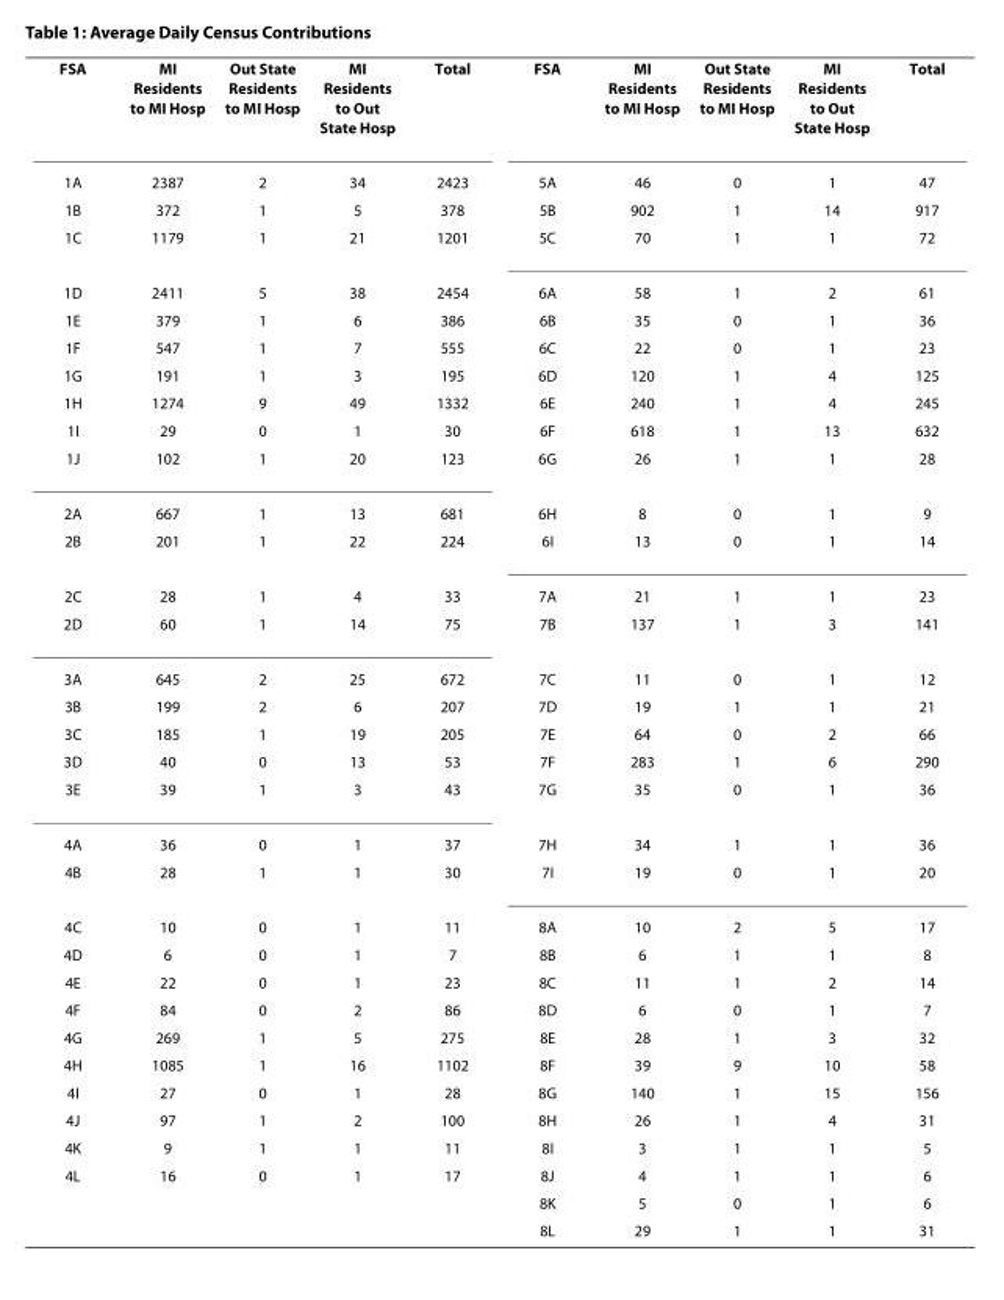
<table><tbody><tr><td>FSA</td><td>MI Residents to MI Hosp</td><td>Out State Residents to MI Hosp</td><td>MI Residents to Out State Hosp</td><td>Total</td><td>FSA</td><td>MI Residents to MI Hosp</td><td>Out State Residents to MI Hosp</td><td>MI Residents to Out State Hosp</td><td>Total</td></tr><tr><td>1A</td><td>2387</td><td>2</td><td>34</td><td>2423</td><td>5A</td><td>46</td><td>0</td><td>1</td><td>47</td></tr><tr><td>1B</td><td>372</td><td>1</td><td>5</td><td>378</td><td>5B</td><td>902</td><td>1</td><td>14</td><td>917</td></tr><tr><td>1C</td><td>1179</td><td>1</td><td>21</td><td>1201</td><td>5C</td><td>70</td><td>1</td><td>1</td><td>72</td></tr><tr><td>1D</td><td>2411</td><td>5</td><td>38</td><td>2454</td><td>6A</td><td>58</td><td>1</td><td>2</td><td>61</td></tr><tr><td>1E</td><td>379</td><td>1</td><td>6</td><td>386</td><td>6B</td><td>35</td><td>0</td><td>1</td><td>36</td></tr><tr><td>1F</td><td>547</td><td>1</td><td>7</td><td>555</td><td>6C</td><td>22</td><td>0</td><td>1</td><td>23</td></tr><tr><td>1G</td><td>191</td><td>1</td><td>3</td><td>195</td><td>6D</td><td>120</td><td>1</td><td>4</td><td>125</td></tr><tr><td>1H</td><td>1274</td><td>9</td><td>49</td><td>1332</td><td>6E</td><td>240</td><td>1</td><td>4</td><td>245</td></tr><tr><td>1I</td><td>29</td><td>0</td><td>1</td><td>30</td><td>6F</td><td>618</td><td>1</td><td>13</td><td>632</td></tr><tr><td>1J</td><td>102</td><td>1</td><td>20</td><td>123</td><td>6G</td><td>26</td><td>1</td><td>1</td><td>28</td></tr><tr><td>2A</td><td>667</td><td>1</td><td>13</td><td>681</td><td>6H</td><td>8</td><td>0</td><td>1</td><td>9</td></tr><tr><td>2B</td><td>201</td><td>1</td><td>22</td><td>224</td><td>6I</td><td>13</td><td>0</td><td>1</td><td>14</td></tr><tr><td>2C</td><td>28</td><td>1</td><td>4</td><td>33</td><td>7A</td><td>21</td><td>1</td><td>1</td><td>23</td></tr><tr><td>2D</td><td>60</td><td>1</td><td>14</td><td>75</td><td>7B</td><td>137</td><td>1</td><td>3</td><td>141</td></tr><tr><td>3A</td><td>645</td><td>2</td><td>25</td><td>672</td><td>7C</td><td>11</td><td>0</td><td>1</td><td>12</td></tr><tr><td>3B</td><td>199</td><td>2</td><td>6</td><td>207</td><td>7D</td><td>19</td><td>1</td><td>1</td><td>21</td></tr><tr><td>3C</td><td>185</td><td>1</td><td>19</td><td>205</td><td>7E</td><td>64</td><td>0</td><td>2</td><td>66</td></tr><tr><td>3D</td><td>40</td><td>0</td><td>13</td><td>53</td><td>7F</td><td>283</td><td>1</td><td>6</td><td>290</td></tr><tr><td>3E</td><td>39</td><td>1</td><td>3</td><td>43</td><td>7G</td><td>35</td><td>0</td><td>1</td><td>36</td></tr><tr><td>4A</td><td>36</td><td>0</td><td>1</td><td>37</td><td>7H</td><td>34</td><td>1</td><td>1</td><td>36</td></tr><tr><td>4B</td><td>28</td><td>1</td><td>1</td><td>30</td><td>7I</td><td>19</td><td>0</td><td>1</td><td>20</td></tr><tr><td>4C</td><td>10</td><td>0</td><td>1</td><td>11</td><td>8A</td><td>10</td><td>2</td><td>5</td><td>17</td></tr><tr><td>4D</td><td>6</td><td>0</td><td>1</td><td>7</td><td>8B</td><td>6</td><td>1</td><td>1</td><td>8</td></tr><tr><td>4E</td><td>22</td><td>0</td><td>1</td><td>23</td><td>8C</td><td>11</td><td>1</td><td>2</td><td>14</td></tr><tr><td>4F</td><td>84</td><td>0</td><td>2</td><td>86</td><td>8D</td><td>6</td><td>0</td><td>1</td><td>7</td></tr><tr><td>4G</td><td>269</td><td>1</td><td>5</td><td>275</td><td>8E</td><td>28</td><td>1</td><td>3</td><td>32</td></tr><tr><td>4H</td><td>1085</td><td>1</td><td>16</td><td>1102</td><td>8F</td><td>39</td><td>9</td><td>10</td><td>58</td></tr><tr><td>4I</td><td>27</td><td>0</td><td>1</td><td>28</td><td>8G</td><td>140</td><td>1</td><td>15</td><td>156</td></tr><tr><td>4J</td><td>97</td><td>1</td><td>2</td><td>100</td><td>8H</td><td>26</td><td>1</td><td>4</td><td>31</td></tr><tr><td>4K</td><td>9</td><td>1</td><td>1</td><td>11</td><td>8I</td><td>3</td><td>1</td><td>1</td><td>5</td></tr><tr><td rowspan="3">4L</td><td>16</td><td>0</td><td>1</td><td>17</td><td>8J</td><td>4</td><td>1</td><td>1</td><td>6</td></tr><tr><td></td><td></td><td></td><td></td><td>8K</td><td>5</td><td>0</td><td>1</td><td>6</td></tr><tr><td></td><td></td><td></td><td></td><td>8L</td><td>29</td><td>1</td><td>1</td><td>31</td></tr></tbody></table>